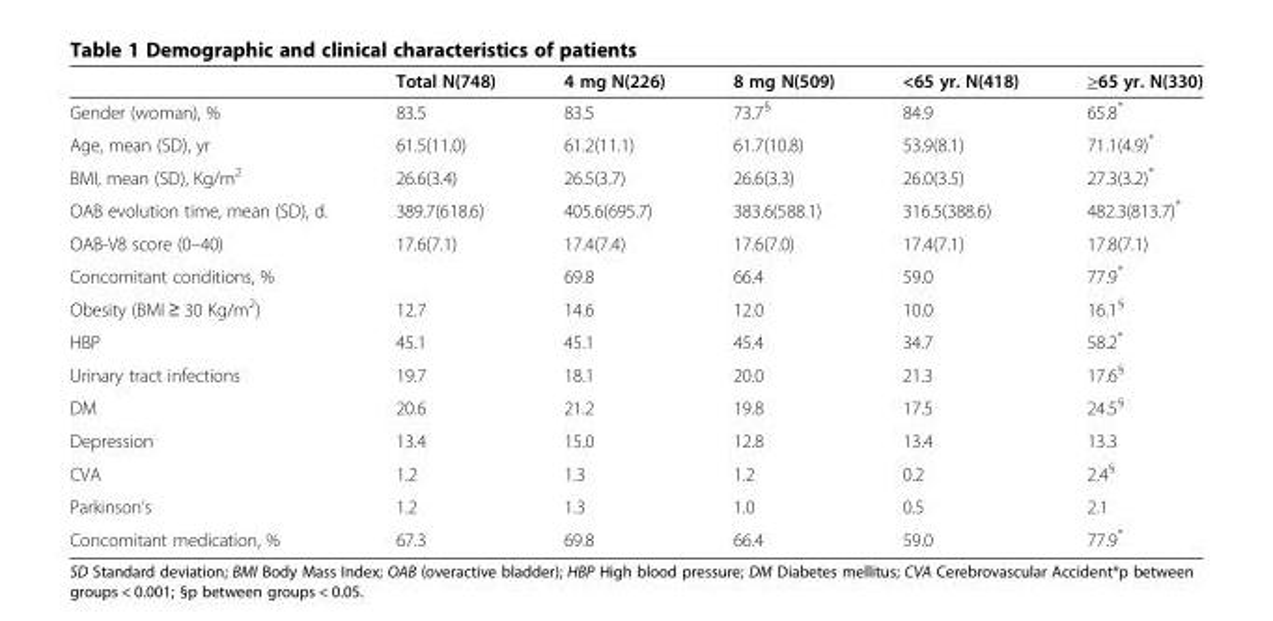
<table><thead><tr><td></td><td>Total N(748)</td><td>4 mg N(226)</td><td>8 mg N(509)</td><td>&lt;65 yr. N(418)</td><td>≥65 yr. N(330)</td></tr></thead><tbody><tr><td>Gender (woman), %</td><td>83.5</td><td>83.5</td><td>73.7<sup>§</sup></td><td>84.9</td><td>65.8*</td></tr><tr><td>Age, mean (SD), yr</td><td>61.5(11.0)</td><td>61.2(11.1)</td><td>61.7(10.8)</td><td>53.9(8.1)</td><td>71.1(4.9)*</td></tr><tr><td>BMI, mean (SD), Kg/m<sup>2</sup></td><td>26.6(3.4)</td><td>26.5(3.7)</td><td>26.6(3.3)</td><td>26.0(3.5)</td><td>27.3(3.2)*</td></tr><tr><td>OAB evolution time, mean (SD), d.</td><td>389.7(618.6)</td><td>405.6(695.7)</td><td>383.6(588.1)</td><td>316.5(388.6)</td><td>482.3(813.7)*</td></tr><tr><td>OAB-V8 score (0–40)</td><td>17.6(7.1)</td><td>17.4(7.4)</td><td>17.6(7.0)</td><td>17.4(7.1)</td><td>17.8(7.1)</td></tr><tr><td>Concomitant conditions, %</td><td></td><td>69.8</td><td>66.4</td><td>59.0</td><td>77.9*</td></tr><tr><td>Obesity (BMI ≥ 30 Kg/m<sup>2</sup>)</td><td>12.7</td><td>14.6</td><td>12.0</td><td>10.0</td><td>16.1<sup>§</sup></td></tr><tr><td>HBP</td><td>45.1</td><td>45.1</td><td>45.4</td><td>34.7</td><td>58.2*</td></tr><tr><td>Urinary tract infections</td><td>19.7</td><td>18.1</td><td>20.0</td><td>21.3</td><td>17.6<sup>§</sup></td></tr><tr><td>DM</td><td>20.6</td><td>21.2</td><td>19.8</td><td>17.5</td><td>24.5<sup>§</sup></td></tr><tr><td>Depression</td><td>13.4</td><td>15.0</td><td>12.8</td><td>13.4</td><td>13.3</td></tr><tr><td>CVA</td><td>1.2</td><td>1.3</td><td>1.2</td><td>0.2</td><td>2.4<sup>§</sup></td></tr><tr><td>Parkinson’s</td><td>1.2</td><td>1.3</td><td>1.0</td><td>0.5</td><td>2.1</td></tr><tr><td>Concomitant medication, %</td><td>67.3</td><td>69.8</td><td>66.4</td><td>59.0</td><td>77.9*</td></tr></tbody></table>